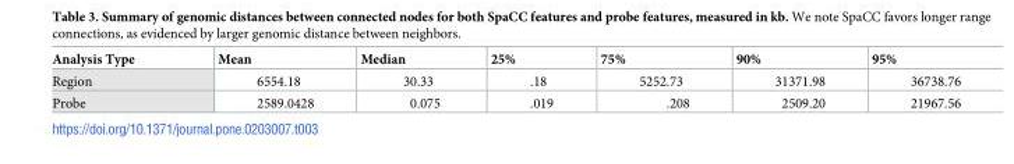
<table><thead><tr><td>Analysis Type</td><td>Mean</td><td>Median</td><td>25%</td><td>75%</td><td>90%</td><td>95%</td></tr></thead><tbody><tr><td>Region</td><td>6554.18</td><td>30.33</td><td>.18</td><td>5252.73</td><td>31371.98</td><td>36738.76</td></tr><tr><td>Probe</td><td>2589.0428</td><td>0.075</td><td>.019</td><td>.208</td><td>2509.20</td><td>21967.56</td></tr></tbody></table>